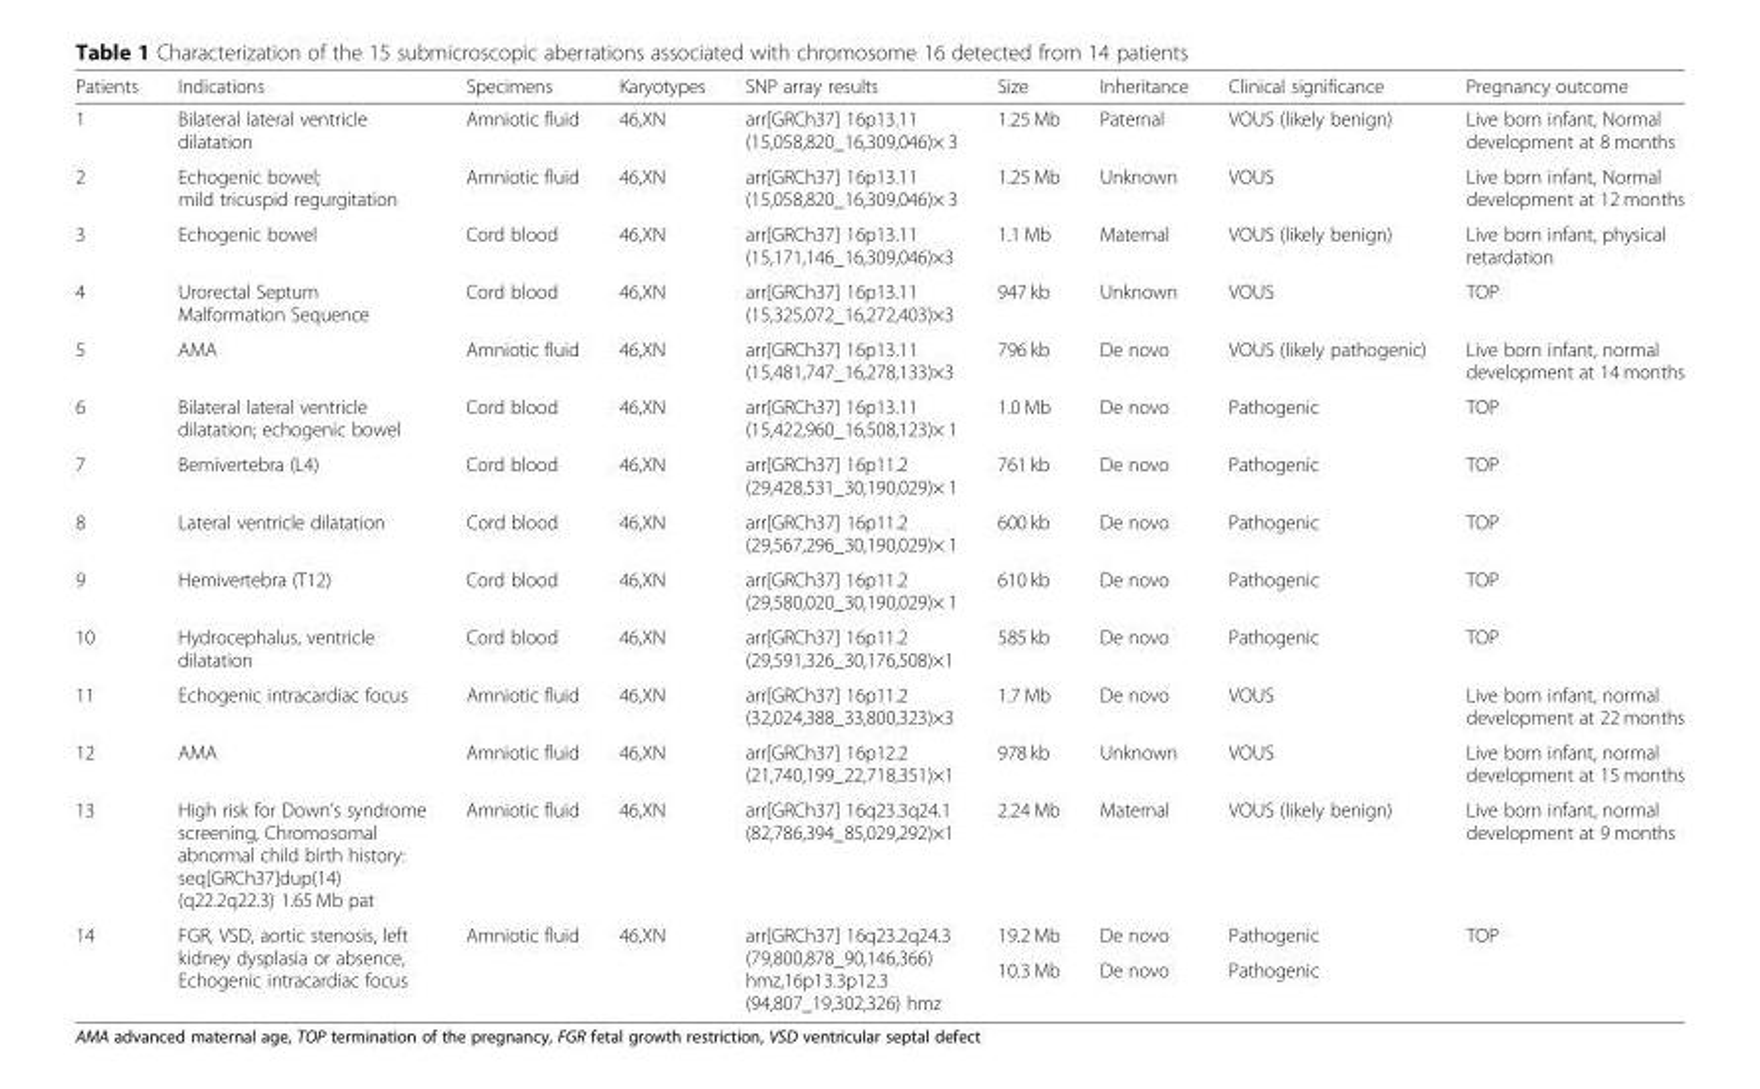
<table><thead><tr><td>Patients</td><td>Indications</td><td>Specimens</td><td>Karyotypes</td><td>SNP array results</td><td>Size</td><td>Inheritance</td><td>Clinical significance</td><td>Pregnancy outcome</td></tr></thead><tbody><tr><td>1</td><td>Bilateral lateral ventricle dilatation</td><td>Amniotic fluid</td><td>46,XN</td><td>arr[GRCh37] 16p13.11 (15,058,820_16,309,046)× 3</td><td>1.25 Mb</td><td>Paternal</td><td>VOUS (likely benign)</td><td>Live born infant, Normal development at 8 months</td></tr><tr><td>2</td><td>Echogenic bowel; mild tricuspid regurgitation</td><td>Amniotic fluid</td><td>46,XN</td><td>arr[GRCh37] 16p13.11 (15,058,820_16,309,046)× 3</td><td>1.25 Mb</td><td>Unknown</td><td>VOUS</td><td>Live born infant, Normal development at 12 months</td></tr><tr><td>3</td><td>Echogenic bowel</td><td>Cord blood</td><td>46,XN</td><td>arr[GRCh37] 16p13.11 (15,171,146_16,309,046)×3</td><td>1.1 Mb</td><td>Maternal</td><td>VOUS (likely benign)</td><td>Live born infant, physical retardation</td></tr><tr><td>4</td><td>Urorectal Septum Malformation Sequence</td><td>Cord blood</td><td>46,XN</td><td>arr[GRCh37] 16p13.11 (15,325,072_16,272,403)×3</td><td>947 kb</td><td>Unknown</td><td>VOUS</td><td>TOP</td></tr><tr><td>5</td><td>AMA</td><td>Amniotic fluid</td><td>46,XN</td><td>arr[GRCh37] 16p13.11 (15,481,747_16,278,133)×3</td><td>796 kb</td><td>De novo</td><td>VOUS (likely pathogenic)</td><td>Live born infant, normal development at 14 months</td></tr><tr><td>6</td><td>Bilateral lateral ventricle dilatation; echogenic bowel</td><td>Cord blood</td><td>46,XN</td><td>arr[GRCh37] 16p13.11 (15,422,960_16,508,123)× 1</td><td>1.0 Mb</td><td>De novo</td><td>Pathogenic</td><td>TOP</td></tr><tr><td>7</td><td>Bemivertebra (L4)</td><td>Cord blood</td><td>46,XN</td><td>arr[GRCh37] 16p11.2 (29,428,531_30,190,029)× 1</td><td>761 kb</td><td>De novo</td><td>Pathogenic</td><td>TOP</td></tr><tr><td>8</td><td>Lateral ventricle dilatation</td><td>Cord blood</td><td>46,XN</td><td>arr[GRCh37] 16p11.2 (29,567,296_30,190,029)× 1</td><td>600 kb</td><td>De novo</td><td>Pathogenic</td><td>TOP</td></tr><tr><td>9</td><td>Hemivertebra (T12)</td><td>Cord blood</td><td>46,XN</td><td>arr[GRCh37] 16p11.2 (29,580,020_30,190,029)× 1</td><td>610 kb</td><td>De novo</td><td>Pathogenic</td><td>TOP</td></tr><tr><td>10</td><td>Hydrocephalus, ventricle dilatation</td><td>Cord blood</td><td>46,XN</td><td>arr[GRCh37] 16p11.2 (29,591,326_30,176,508)×1</td><td>585 kb</td><td>De novo</td><td>Pathogenic</td><td>TOP</td></tr><tr><td>11</td><td>Echogenic intracardiac focus</td><td>Amniotic fluid</td><td>46,XN</td><td>arr[GRCh37] 16p11.2 (32,024,388_33,800,323)×3</td><td>1.7 Mb</td><td>De novo</td><td>VOUS</td><td>Live born infant, normal development at 22 months</td></tr><tr><td>12</td><td>AMA</td><td>Amniotic fluid</td><td>46,XN</td><td>arr[GRCh37] 16p12.2 (21,740,199_22,718,351)×1</td><td>978 kb</td><td>Unknown</td><td>VOUS</td><td>Live born infant, normal development at 15 months</td></tr><tr><td>13</td><td>High risk for Down’s syndrome screening, Chromosomal abnormal child birth history: seq[GRCh37]dup(14) (q22.2q22.3) 1.65 Mb pat</td><td>Amniotic fluid</td><td>46,XN</td><td>arr[GRCh37] 16q23.3q24.1 (82,786,394_85,029,292)×1</td><td>2.24 Mb</td><td>Maternal</td><td>VOUS (likely benign)</td><td>Live born infant, normal development at 9 months</td></tr><tr><td rowspan="2">14</td><td rowspan="2">FGR, VSD, aortic stenosis, left kidney dysplasia or absence, Echogenic intracardiac focus</td><td rowspan="2">Amniotic fluid</td><td rowspan="2">46,XN</td><td rowspan="2">arr[GRCh37] 16q23.2q24.3 (79,800,878_90,146,366) hmz,16p13.3p12.3 (94,807_19,302,326) hmz</td><td>19.2 Mb</td><td>De novo</td><td>Pathogenic</td><td rowspan="2">TOP</td></tr><tr><td>10.3 Mb</td><td>De novo</td><td>Pathogenic</td></tr></tbody></table>